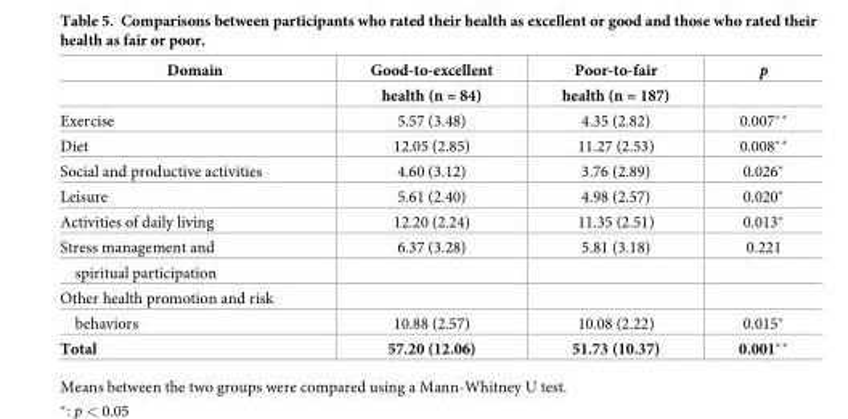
<table><thead><tr><td rowspan="2">Domain</td><td rowspan="2">Good-to-excellent health (n = 84)</td><td rowspan="2">Poor-to-fair health (n = 187)</td><td rowspan="2">p</td></tr><tr></tr></thead><tbody><tr><td>Exercise</td><td>5.57 (3.48)</td><td>4.35 (2.82)</td><td>0.007**</td></tr><tr><td>Diet</td><td>12.05 (2.85)</td><td>11.27 (2.53)</td><td>0.008**</td></tr><tr><td>Social and productive activities</td><td>4.60 (3.12)</td><td>3.76 (2.89)</td><td>0.026*</td></tr><tr><td>Leisure</td><td>5.61 (2.40)</td><td>4.98 (2.57)</td><td>0.020*</td></tr><tr><td>Activities of daily living</td><td>12.20 (2.24)</td><td>11.35 (2.51)</td><td>0.013*</td></tr><tr><td>Stress management and</td><td>6.37 (3.28)</td><td>5.81 (3.18)</td><td>0.221</td></tr><tr><td colspan="4">spiritual participation</td></tr><tr><td colspan="4">Other health promotion and risk</td></tr><tr><td>behaviors</td><td>10.88 (2.57)</td><td>10.08 (2.22)</td><td>0.015*</td></tr><tr><td>Total</td><td>57.20 (12.06)</td><td>51.73 (10.37)</td><td>0.001**</td></tr></tbody></table>